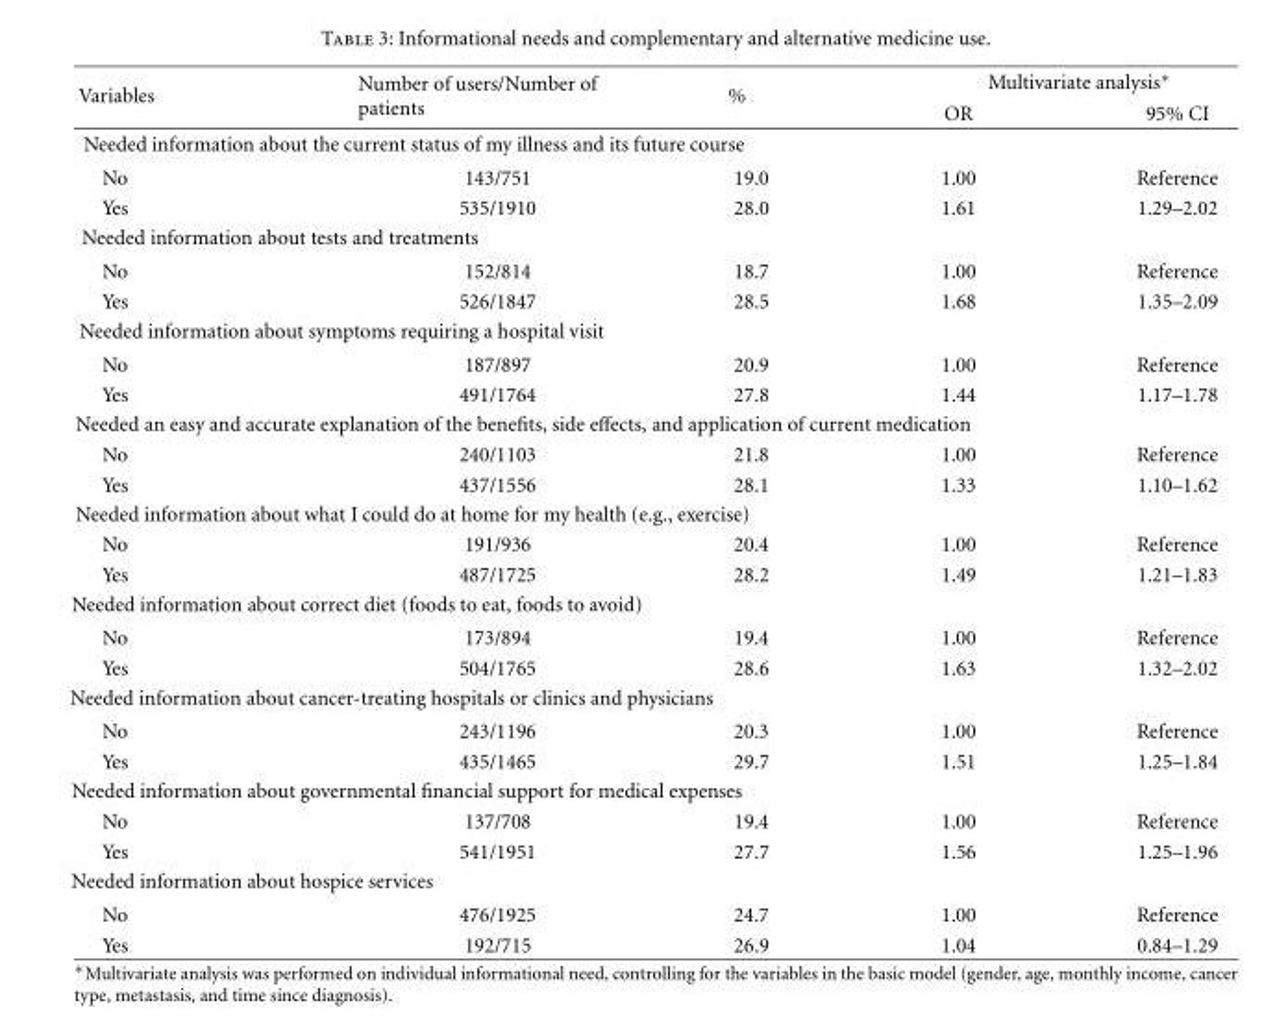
<table><thead><tr><td rowspan="2">Variables</td><td rowspan="2">Number of users/Number of patients</td><td rowspan="2">%</td><td colspan="2">Multivariate analysis∗</td></tr><tr><td>OR</td><td>95% CI</td></tr></thead><tbody><tr><td colspan="5">Needed information about the current status of my illness and its future course</td></tr><tr><td>No</td><td>143/751</td><td>19.0</td><td>1.00</td><td>Reference</td></tr><tr><td>Yes</td><td>535/1910</td><td>28.0</td><td>1.61</td><td>1.29–2.02</td></tr><tr><td colspan="5">Needed information about tests and treatments</td></tr><tr><td>No</td><td>152/814</td><td>18.7</td><td>1.00</td><td>Reference</td></tr><tr><td>Yes</td><td>526/1847</td><td>28.5</td><td>1.68</td><td>1.35–2.09</td></tr><tr><td colspan="5">Needed information about symptoms requiring a hospital visit</td></tr><tr><td>No</td><td>187/897</td><td>20.9</td><td>1.00</td><td>Reference</td></tr><tr><td>Yes</td><td>491/1764</td><td>27.8</td><td>1.44</td><td>1.17–1.78</td></tr><tr><td colspan="5">Needed an easy and accurate explanation of the benefits, side effects, and application of current medication</td></tr><tr><td>No</td><td>240/1103</td><td>21.8</td><td>1.00</td><td>Reference</td></tr><tr><td>Yes</td><td>437/1556</td><td>28.1</td><td>1.33</td><td>1.10–1.62</td></tr><tr><td colspan="5">Needed information about what I could do at home for my health (e.g., exercise)</td></tr><tr><td>No</td><td>191/936</td><td>20.4</td><td>1.00</td><td>Reference</td></tr><tr><td>Yes</td><td>487/1725</td><td>28.2</td><td>1.49</td><td>1.21–1.83</td></tr><tr><td colspan="5">Needed information about correct diet (foods to eat, foods to avoid)</td></tr><tr><td>No</td><td>173/894</td><td>19.4</td><td>1.00</td><td>Reference</td></tr><tr><td>Yes</td><td>504/1765</td><td>28.6</td><td>1.63</td><td>1.32–2.02</td></tr><tr><td colspan="5">Needed information about cancer-treating hospitals or clinics and physicians</td></tr><tr><td>No</td><td>243/1196</td><td>20.3</td><td>1.00</td><td>Reference</td></tr><tr><td>Yes</td><td>435/1465</td><td>29.7</td><td>1.51</td><td>1.25–1.84</td></tr><tr><td colspan="5">Needed information about governmental financial support for medical expenses</td></tr><tr><td>No</td><td>137/708</td><td>19.4</td><td>1.00</td><td>Reference</td></tr><tr><td>Yes</td><td>541/1951</td><td>27.7</td><td>1.56</td><td>1.25–1.96</td></tr><tr><td colspan="5">Needed information about hospice services</td></tr><tr><td>No</td><td>476/1925</td><td>24.7</td><td>1.00</td><td>Reference</td></tr><tr><td>Yes</td><td>192/715</td><td>26.9</td><td>1.04</td><td>0.84–1.29</td></tr></tbody></table>